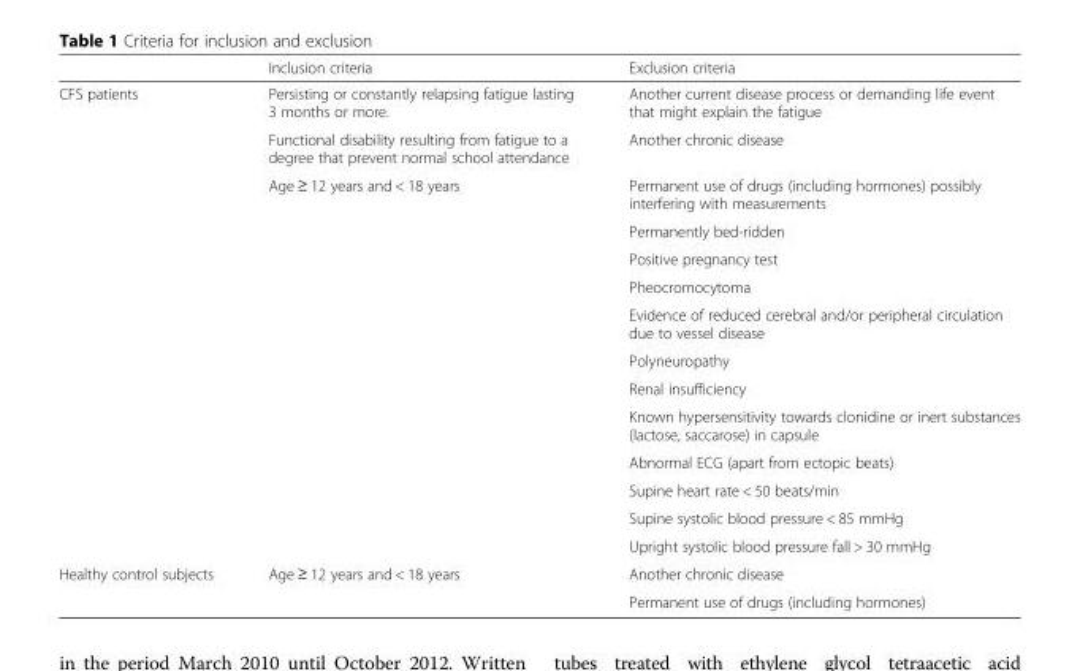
<table><thead><tr><td></td><td>Inclusion criteria</td><td>Exclusion criteria</td></tr></thead><tbody><tr><td rowspan="14">CFS patients</td><td>Persisting or constantly relapsing fatigue lasting 3 months or more.</td><td>Another current disease process or demanding life event that might explain the fatigue</td></tr><tr><td>Functional disability resulting from fatigue to a degree that prevent normal school attendance</td><td>Another chronic disease</td></tr><tr><td>Age ≥ 12 years and &lt; 18 years</td><td>Permanent use of drugs (including hormones) possibly interfering with measurements</td></tr><tr><td></td><td>Permanently bed-ridden</td></tr><tr><td></td><td>Positive pregnancy test</td></tr><tr><td></td><td>Pheocromocytoma</td></tr><tr><td></td><td>Evidence of reduced cerebral and/or peripheral circulation due to vessel disease</td></tr><tr><td></td><td>Polyneuropathy</td></tr><tr><td></td><td>Renal insufficiency</td></tr><tr><td></td><td>Known hypersensitivity towards clonidine or inert substances (lactose, saccarose) in capsule</td></tr><tr><td></td><td>Abnormal ECG (apart from ectopic beats)</td></tr><tr><td></td><td>Supine heart rate &lt; 50 beats/min</td></tr><tr><td></td><td>Supine systolic blood pressure &lt; 85 mmHg</td></tr><tr><td></td><td>Upright systolic blood pressure fall &gt; 30 mmHg</td></tr><tr><td rowspan="2">Healthy control subjects</td><td>Age ≥ 12 years and &lt; 18 years</td><td>Another chronic disease</td></tr><tr><td></td><td>Permanent use of drugs (including hormones)</td></tr></tbody></table>